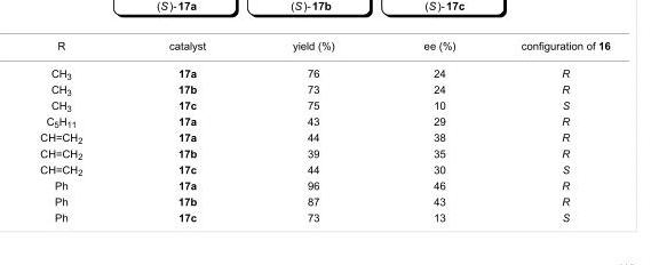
<table><tbody><tr><td>R</td><td>catalyst</td><td>yield (%)</td><td>ee (%)</td><td>configuration of 16</td></tr><tr><td>CH<sub>3</sub></td><td>17a</td><td>76</td><td>24</td><td>R</td></tr><tr><td>CH<sub>3</sub></td><td>17b</td><td>73</td><td>24</td><td>R</td></tr><tr><td>CH<sub>3</sub></td><td>17c</td><td>75</td><td>10</td><td>S</td></tr><tr><td>C<sub>5</sub>H<sub>11</sub></td><td>17a</td><td>43</td><td>29</td><td>R</td></tr><tr><td>CH=CH<sub>2</sub></td><td>17a</td><td>44</td><td>38</td><td>R</td></tr><tr><td>CH=CH<sub>2</sub></td><td>17b</td><td>39</td><td>35</td><td>R</td></tr><tr><td>CH=CH<sub>2</sub></td><td>17c</td><td>44</td><td>30</td><td>S</td></tr><tr><td>Ph</td><td>17a</td><td>96</td><td>46</td><td>R</td></tr><tr><td>Ph</td><td>17b</td><td>87</td><td>43</td><td>R</td></tr><tr><td>Ph</td><td>17c</td><td>73</td><td>13</td><td>S</td></tr></tbody></table>